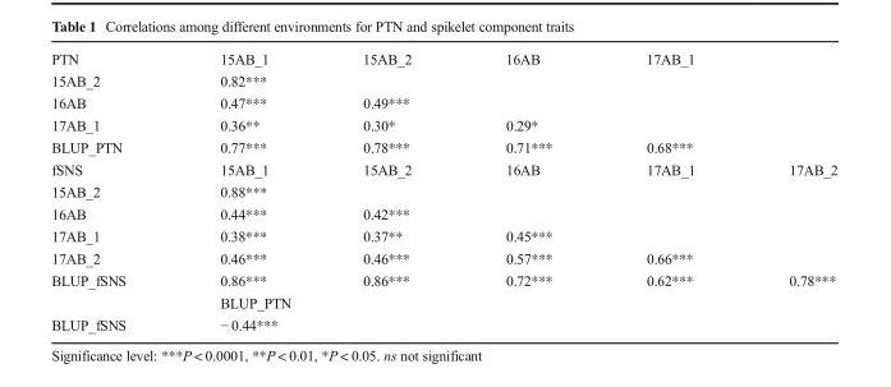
<table><tbody><tr><td>PTN</td><td>15AB_1</td><td>15AB_2</td><td>16AB</td><td>17AB_1</td><td></td></tr><tr><td>15AB_2</td><td>0.82***</td><td></td><td></td><td></td><td></td></tr><tr><td>16AB</td><td>0.47***</td><td>0.49***</td><td></td><td></td><td></td></tr><tr><td>17AB_1</td><td>0.36**</td><td>0.30*</td><td>0.29*</td><td></td><td></td></tr><tr><td>BLUP_PTN</td><td>0.77***</td><td>0.78***</td><td>0.71***</td><td>0.68***</td><td></td></tr><tr><td>fSNS</td><td>15AB_1</td><td>15AB_2</td><td>16AB</td><td>17AB_1</td><td>17AB_2</td></tr><tr><td>15AB_2</td><td>0.88***</td><td></td><td></td><td></td><td></td></tr><tr><td>16AB</td><td>0.44***</td><td>0.42***</td><td></td><td></td><td></td></tr><tr><td>17AB_1</td><td>0.38***</td><td>0.37**</td><td>0.45***</td><td></td><td></td></tr><tr><td>17AB_2</td><td>0.46***</td><td>0.46***</td><td>0.57***</td><td>0.66***</td><td></td></tr><tr><td rowspan="2">BLUP_fSNS</td><td>0.86***</td><td>0.86***</td><td>0.72***</td><td>0.62***</td><td>0.78***</td></tr><tr><td colspan="5">BLUP_PTN</td></tr><tr><td>BLUP_fSNS</td><td colspan="5">− 0.44***</td></tr></tbody></table>